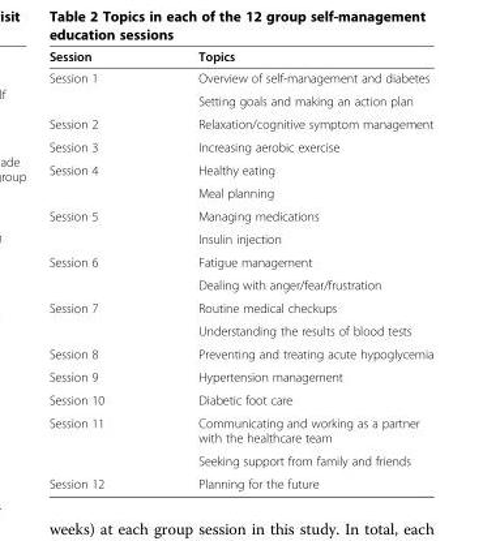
<table><thead><tr><td>Session</td><td>Topics</td></tr></thead><tbody><tr><td rowspan="2">Session 1</td><td>Overview of self-management and diabetes</td></tr><tr><td>Setting goals and making an action plan</td></tr><tr><td>Session 2</td><td>Relaxation/cognitive symptom management</td></tr><tr><td>Session 3</td><td>Increasing aerobic exercise</td></tr><tr><td rowspan="2">Session 4</td><td>Healthy eating</td></tr><tr><td>Meal planning</td></tr><tr><td rowspan="2">Session 5</td><td>Managing medications</td></tr><tr><td>Insulin injection</td></tr><tr><td rowspan="2">Session 6</td><td>Fatigue management</td></tr><tr><td>Dealing with anger/fear/frustration</td></tr><tr><td rowspan="2">Session 7</td><td>Routine medical checkups</td></tr><tr><td>Understanding the results of blood tests</td></tr><tr><td>Session 8</td><td>Preventing and treating acute hypoglycemia</td></tr><tr><td>Session 9</td><td>Hypertension management</td></tr><tr><td>Session 10</td><td>Diabetic foot care</td></tr><tr><td rowspan="2">Session 11</td><td>Communicating and working as a partner with the healthcare team</td></tr><tr><td>Seeking support from family and friends</td></tr><tr><td>Session 12</td><td>Planning for the future</td></tr></tbody></table>